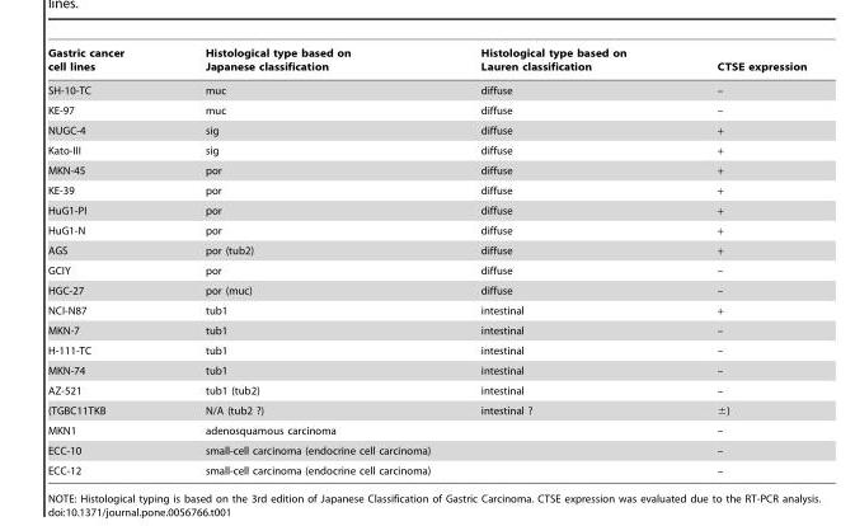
<table><thead><tr><td>Gastric cancer cell lines</td><td>Histological type based on Japanese classification</td><td>Histological type based on Lauren classification</td><td>CTSE expression</td></tr></thead><tbody><tr><td>SH-10-TC</td><td>muc</td><td>diffuse</td><td>–</td></tr><tr><td>KE-97</td><td>muc</td><td>diffuse</td><td>–</td></tr><tr><td>NUGC-4</td><td>sig</td><td>diffuse</td><td>+</td></tr><tr><td>Kato-III</td><td>sig</td><td>diffuse</td><td>+</td></tr><tr><td>MKN-45</td><td>por</td><td>diffuse</td><td>+</td></tr><tr><td>KE-39</td><td>por</td><td>diffuse</td><td>+</td></tr><tr><td>HuG1-PI</td><td>por</td><td>diffuse</td><td>+</td></tr><tr><td>HuG1-N</td><td>por</td><td>diffuse</td><td>+</td></tr><tr><td>AGS</td><td>por (tub2)</td><td>diffuse</td><td>+</td></tr><tr><td>GCIY</td><td>por</td><td>diffuse</td><td>–</td></tr><tr><td>HGC-27</td><td>por (muc)</td><td>diffuse</td><td>–</td></tr><tr><td>NCI-N87</td><td>tub1</td><td>intestinal</td><td>+</td></tr><tr><td>MKN-7</td><td>tub1</td><td>intestinal</td><td>–</td></tr><tr><td>H-111-TC</td><td>tub1</td><td>intestinal</td><td>–</td></tr><tr><td>MKN-74</td><td>tub1</td><td>intestinal</td><td>–</td></tr><tr><td>AZ-521</td><td>tub1 (tub2)</td><td>intestinal</td><td>–</td></tr><tr><td>(TGBC11TKB</td><td>N/A (tub2 ?)</td><td>intestinal ?</td><td>±)</td></tr><tr><td>MKN1</td><td colspan="2">adenosquamous carcinoma</td><td>–</td></tr><tr><td>ECC-10</td><td colspan="2">small-cell carcinoma (endocrine cell carcinoma)</td><td>–</td></tr><tr><td>ECC-12</td><td colspan="2">small-cell carcinoma (endocrine cell carcinoma)</td><td>–</td></tr></tbody></table>